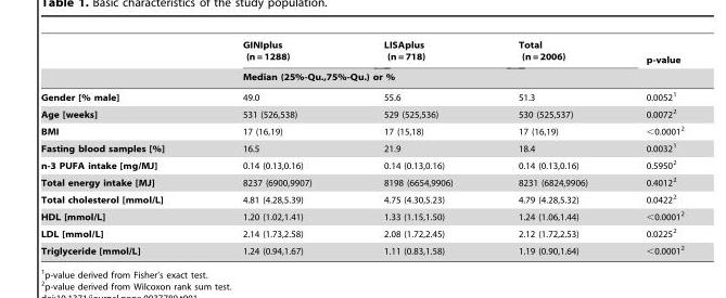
<table><thead><tr><td rowspan="2"></td><td>GINIplus (n = 1288)</td><td>LISAplus (n = 718)</td><td>Total (n = 2006)</td><td rowspan="2">p-value</td></tr><tr><td colspan="3">Median (25%-Qu.,75%-Qu.) or %</td></tr></thead><tbody><tr><td>Gender [% male]</td><td>49.0</td><td>55.6</td><td>51.3</td><td>0.0052<sup>1</sup></td></tr><tr><td>Age [weeks]</td><td>531 (526,538)</td><td>529 (525,536)</td><td>530 (525,537)</td><td>0.0072<sup>2</sup></td></tr><tr><td>BMI</td><td>17 (16,19)</td><td>17 (15,18)</td><td>17 (16,19)</td><td>&lt;0.0001<sup>2</sup></td></tr><tr><td>Fasting blood samples [%]</td><td>16.5</td><td>21.9</td><td>18.4</td><td>0.0032<sup>1</sup></td></tr><tr><td>n-3 PUFA intake [mg/MJ]</td><td>0.14 (0.13,0.16)</td><td>0.14 (0.13,0.16)</td><td>0.14 (0.13,0.16)</td><td>0.5950<sup>2</sup></td></tr><tr><td>Total energy intake [MJ]</td><td>8237 (6900,9907)</td><td>8198 (6654,9906)</td><td>8231 (6824,9906)</td><td>0.4012<sup>2</sup></td></tr><tr><td>Total cholesterol [mmol/L]</td><td>4.81 (4.28,5.39)</td><td>4.75 (4.30,5.23)</td><td>4.79 (4.28,5.32)</td><td>0.0422<sup>2</sup></td></tr><tr><td>HDL [mmol/L]</td><td>1.20 (1.02,1.41)</td><td>1.33 (1.15,1.50)</td><td>1.24 (1.06,1.44)</td><td>&lt;0.0001<sup>2</sup></td></tr><tr><td>LDL [mmol/L]</td><td>2.14 (1.73,2.58)</td><td>2.08 (1.72,2.45)</td><td>2.12 (1.72,2.53)</td><td>0.0225<sup>2</sup></td></tr><tr><td>Triglyceride [mmol/L]</td><td>1.24 (0.94,1.67)</td><td>1.11 (0.83,1.58)</td><td>1.19 (0.90,1.64)</td><td>&lt;0.0001<sup>2</sup></td></tr></tbody></table>